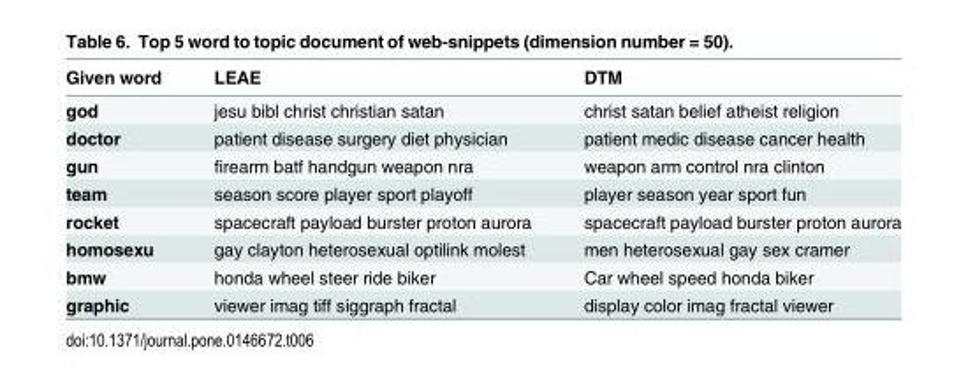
<table><thead><tr><td>Given word</td><td>LEAE</td><td>DTM</td></tr></thead><tbody><tr><td>god</td><td>jesu bibl christ christian satan</td><td>christ satan belief atheist religion</td></tr><tr><td>doctor</td><td>patient disease surgery diet physician</td><td>patient medic disease cancer health</td></tr><tr><td>gun</td><td>firearm batf handgun weapon nra</td><td>weapon arm control nra clinton</td></tr><tr><td>team</td><td>season score player sport playoff</td><td>player season year sport fun</td></tr><tr><td>rocket</td><td>spacecraft payload burster proton aurora</td><td>spacecraft payload burster proton aurora</td></tr><tr><td>homosexu</td><td>gay clayton heterosexual optilink molest</td><td>men heterosexual gay sex cramer</td></tr><tr><td>bmw</td><td>honda wheel steer ride biker</td><td>Car wheel speed honda biker</td></tr><tr><td>graphic</td><td>viewer imag tiff siggraph fractal</td><td>display color imag fractal viewer</td></tr></tbody></table>